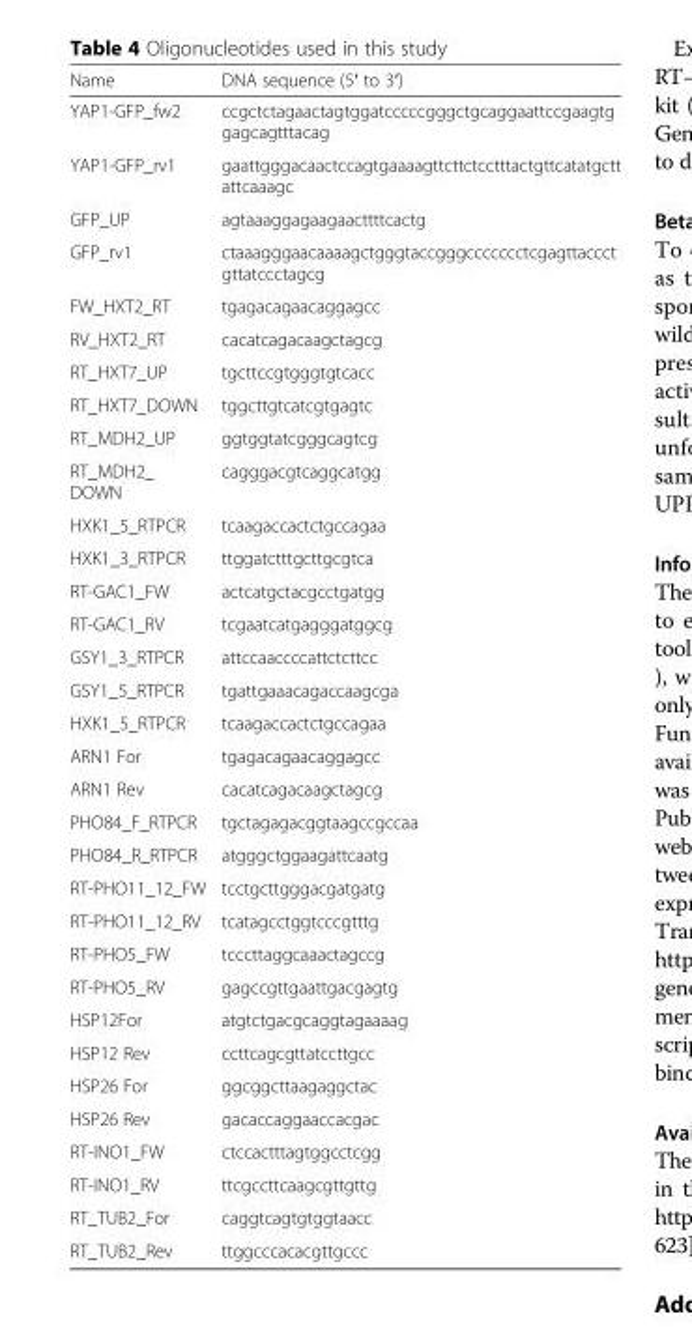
<table><thead><tr><td>Name</td><td>DNA sequence (5′ to 3′)</td></tr></thead><tbody><tr><td>YAP1-GFP_fw2</td><td>ccgctctagaactagtggatcccccgggctgcaggaattccgaagtg gagcagtttacag</td></tr><tr><td>YAP1-GFP_rv1</td><td>gaattgggacaactccagtgaaaagttcttctcctttactgttcatatgctt attcaaagc</td></tr><tr><td>GFP_UP</td><td>agtaaaggagaagaacttttcactg</td></tr><tr><td>GFP_rv1</td><td>ctaaagggaacaaaagctgggtaccgggccccccctcgagttaccct gttatccctagcg</td></tr><tr><td>FW_HXT2_RT</td><td>tgagacagaacaggagcc</td></tr><tr><td>RV_HXT2_RT</td><td>cacatcagacaagctagcg</td></tr><tr><td>RT_HXT7_UP</td><td>tgcttccgtgggtgtcacc</td></tr><tr><td>RT_HXT7_DOWN</td><td>tggcttgtcatcgtgagtc</td></tr><tr><td>RT_MDH2_UP</td><td>ggtggtatcgggcagtcg</td></tr><tr><td>RT_MDH2_ DOWN</td><td>cagggacgtcaggcatgg</td></tr><tr><td>HXK1_5_RTPCR</td><td>tcaagaccactctgccagaa</td></tr><tr><td>HXK1_3_RTPCR</td><td>ttggatctttgcttgcgtca</td></tr><tr><td>RT-GAC1_FW</td><td>actcatgctacgcctgatgg</td></tr><tr><td>RT-GAC1_RV</td><td>tcgaatcatgagggatggcg</td></tr><tr><td>GSY1_3_RTPCR</td><td>attccaaccccattctcttcc</td></tr><tr><td>GSY1_5_RTPCR</td><td>tgattgaaacagaccaagcga</td></tr><tr><td>HXK1_5_RTPCR</td><td>tcaagaccactctgccagaa</td></tr><tr><td>ARN1 For</td><td>tgagacagaacaggagcc</td></tr><tr><td>ARN1 Rev</td><td>cacatcagacaagctagcg</td></tr><tr><td>PHO84_F_RTPCR</td><td>tgctagagacggtaagccgccaa</td></tr><tr><td>PHO84_R_RTPCR</td><td>atgggctggaagattcaatg</td></tr><tr><td>RT-PHO11_12_FW</td><td>tcctgcttgggacgatgatg</td></tr><tr><td>RT-PHO11_12_RV</td><td>tcatagcctggtcccgtttg</td></tr><tr><td>RT-PHO5_FW</td><td>tcccttaggcaaactagccg</td></tr><tr><td>RT-PHO5_RV</td><td>gagccgttgaattgacgagtg</td></tr><tr><td>HSP12For</td><td>atgtctgacgcaggtagaaaag</td></tr><tr><td>HSP12 Rev</td><td>ccttcagcgttatccttgcc</td></tr><tr><td>HSP26 For</td><td>ggcggcttaagaggctac</td></tr><tr><td>HSP26 Rev</td><td>gacaccaggaaccacgac</td></tr><tr><td>RT-INO1_FW</td><td>ctccactttagtggcctcgg</td></tr><tr><td>RT-INO1_RV</td><td>ttcgccttcaagcgttgttg</td></tr><tr><td>RT_TUB2_For</td><td>caggtcagtgtggtaacc</td></tr><tr><td>RT_TUB2_Rev</td><td>ttggcccacacgttgccc</td></tr></tbody></table>